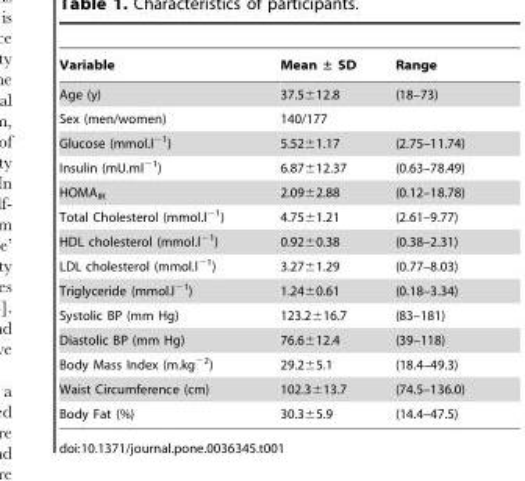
<table><thead><tr><td>Variable</td><td>Mean ± SD</td><td>Range</td></tr></thead><tbody><tr><td>Age (y)</td><td>37.5±12.8</td><td>(18–73)</td></tr><tr><td>Sex (men/women)</td><td>140/177</td><td></td></tr><tr><td>Glucose (mmol.l<sup>−1</sup>)</td><td>5.52±1.17</td><td>(2.75–11.74)</td></tr><tr><td>Insulin (mU.ml<sup>−1</sup>)</td><td>6.87±12.37</td><td>(0.63–78.49)</td></tr><tr><td>HOMA<sub>IR</sub></td><td>2.09±2.88</td><td>(0.12–18.78)</td></tr><tr><td>Total Cholesterol (mmol.l<sup>−1</sup>)</td><td>4.75±1.21</td><td>(2.61–9.77)</td></tr><tr><td>HDL cholesterol (mmol.l<sup>−1</sup>)</td><td>0.92±0.38</td><td>(0.38–2.31)</td></tr><tr><td>LDL cholesterol (mmol.l<sup>−1</sup>)</td><td>3.27±1.29</td><td>(0.77–8.03)</td></tr><tr><td>Triglyceride (mmol.l<sup>−1</sup>)</td><td>1.24±0.61</td><td>(0.18–3.34)</td></tr><tr><td>Systolic BP (mm Hg)</td><td>123.2±16.7</td><td>(83–181)</td></tr><tr><td>Diastolic BP (mm Hg)</td><td>76.6±12.4</td><td>(39–118)</td></tr><tr><td>Body Mass Index (m.kg<sup>−2</sup>)</td><td>29.2±5.1</td><td>(18.4–49.3)</td></tr><tr><td>Waist Circumference (cm)</td><td>102.3±13.7</td><td>(74.5–136.0)</td></tr><tr><td>Body Fat (%)</td><td>30.3±5.9</td><td>(14.4–47.5)</td></tr></tbody></table>